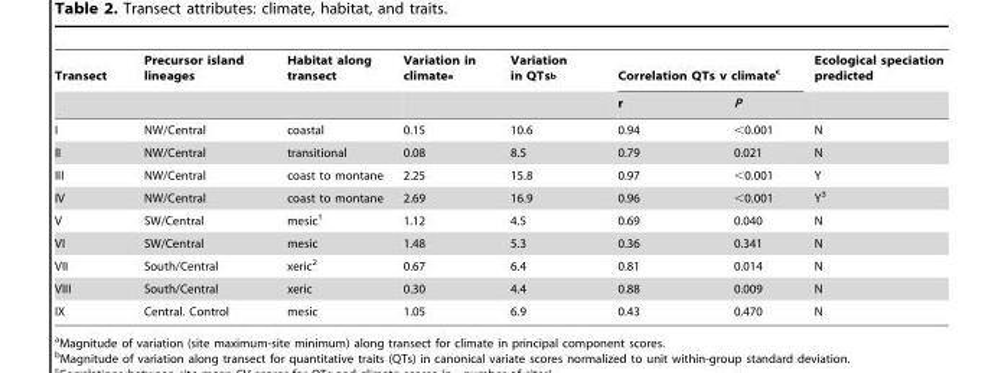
<table><thead><tr><td rowspan="2">Transect</td><td rowspan="2">Precursor island lineages</td><td rowspan="2">Habitat along transect</td><td rowspan="2">Variation in climate<sup>a</sup></td><td rowspan="2">Variation in QTs<sup>b</sup></td><td colspan="2">Correlation QTs v climate<sup>c</sup></td><td rowspan="2">Ecological speciation predicted</td></tr><tr><td>r</td><td>P</td></tr></thead><tbody><tr><td>I</td><td>NW/Central</td><td>coastal</td><td>0.15</td><td>10.6</td><td>0.94</td><td>&lt;0.001</td><td>N</td></tr><tr><td>II</td><td>NW/Central</td><td>transitional</td><td>0.08</td><td>8.5</td><td>0.79</td><td>0.021</td><td>N</td></tr><tr><td>III</td><td>NW/Central</td><td>coast to montane</td><td>2.25</td><td>15.8</td><td>0.97</td><td>&lt;0.001</td><td>Y</td></tr><tr><td>IV</td><td>NW/Central</td><td>coast to montane</td><td>2.69</td><td>16.9</td><td>0.96</td><td>&lt;0.001</td><td>Y<sup>3</sup></td></tr><tr><td>V</td><td>SW/Central</td><td>mesic<sup>1</sup></td><td>1.12</td><td>4.5</td><td>0.69</td><td>0.040</td><td>N</td></tr><tr><td>VI</td><td>SW/Central</td><td>mesic</td><td>1.48</td><td>5.3</td><td>0.36</td><td>0.341</td><td>N</td></tr><tr><td>VII</td><td>South/Central</td><td>xeric<sup>2</sup></td><td>0.67</td><td>6.4</td><td>0.81</td><td>0.014</td><td>N</td></tr><tr><td>VIII</td><td>South/Central</td><td>xeric</td><td>0.30</td><td>4.4</td><td>0.88</td><td>0.009</td><td>N</td></tr><tr><td>IX</td><td>Central. Control</td><td>mesic</td><td>1.05</td><td>6.9</td><td>0.43</td><td>0.470</td><td>N</td></tr></tbody></table>